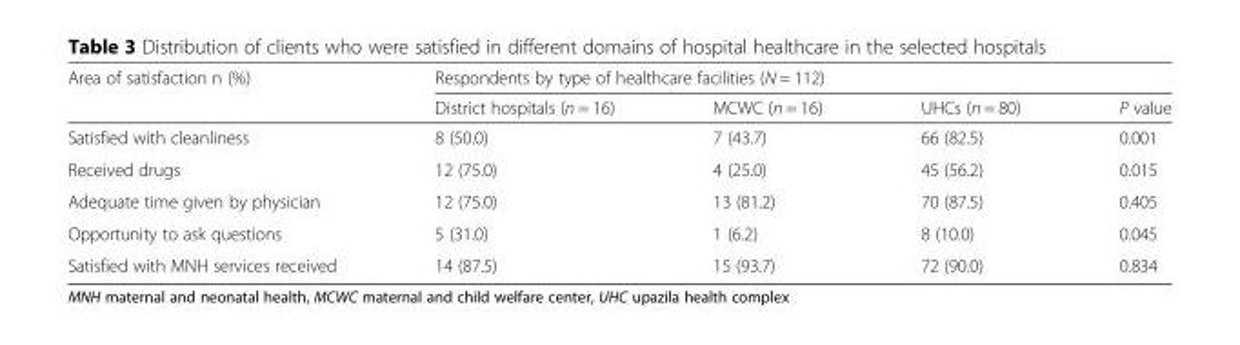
<table><thead><tr><td rowspan="2">Area of satisfaction n (%)</td><td colspan="4">Respondents by type of healthcare facilities (N = 112)</td></tr><tr><td>District hospitals (n = 16)</td><td>MCWC (n = 16)</td><td>UHCs (n = 80)</td><td>P value</td></tr></thead><tbody><tr><td>Satisfied with cleanliness</td><td>8 (50.0)</td><td>7 (43.7)</td><td>66 (82.5)</td><td>0.001</td></tr><tr><td>Received drugs</td><td>12 (75.0)</td><td>4 (25.0)</td><td>45 (56.2)</td><td>0.015</td></tr><tr><td>Adequate time given by physician</td><td>12 (75.0)</td><td>13 (81.2)</td><td>70 (87.5)</td><td>0.405</td></tr><tr><td>Opportunity to ask questions</td><td>5 (31.0)</td><td>1 (6.2)</td><td>8 (10.0)</td><td>0.045</td></tr><tr><td>Satisfied with MNH services received</td><td>14 (87.5)</td><td>15 (93.7)</td><td>72 (90.0)</td><td>0.834</td></tr></tbody></table>